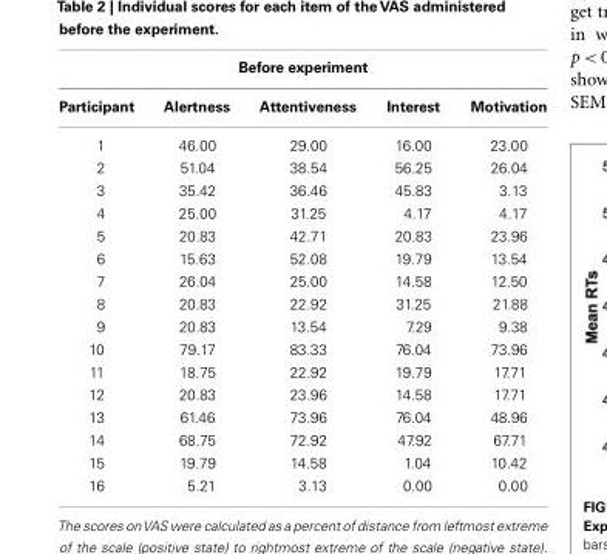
<table><thead><tr><td colspan="5">Before experiment</td></tr><tr><td>Participant</td><td>Alertness</td><td>Attentiveness</td><td>Interest</td><td>Motivation</td></tr></thead><tbody><tr><td>1</td><td>46.00</td><td>29.00</td><td>16.00</td><td>23.00</td></tr><tr><td>2</td><td>51.04</td><td>38.54</td><td>56.25</td><td>26.04</td></tr><tr><td>3</td><td>35.42</td><td>36.46</td><td>45.83</td><td>3.13</td></tr><tr><td>4</td><td>25.00</td><td>31.25</td><td>4.17</td><td>4.17</td></tr><tr><td>5</td><td>20.83</td><td>42.71</td><td>20.83</td><td>23.96</td></tr><tr><td>6</td><td>15.63</td><td>52.08</td><td>19.79</td><td>13.54</td></tr><tr><td>7</td><td>26.04</td><td>25.00</td><td>14.58</td><td>12.50</td></tr><tr><td>8</td><td>20.83</td><td>22.92</td><td>31.25</td><td>21.88</td></tr><tr><td>9</td><td>20.83</td><td>13.54</td><td>7.29</td><td>9.38</td></tr><tr><td>10</td><td>79.17</td><td>83.33</td><td>76.04</td><td>73.96</td></tr><tr><td>11</td><td>18.75</td><td>22.92</td><td>19.79</td><td>17.71</td></tr><tr><td>12</td><td>20.83</td><td>23.96</td><td>14.58</td><td>17.71</td></tr><tr><td>13</td><td>61.46</td><td>73.96</td><td>76.04</td><td>48.96</td></tr><tr><td>14</td><td>68.75</td><td>72.92</td><td>47.92</td><td>67.71</td></tr><tr><td>15</td><td>19.79</td><td>14.58</td><td>1.04</td><td>10.42</td></tr><tr><td>16</td><td>5.21</td><td>3.13</td><td>0.00</td><td>0.00</td></tr></tbody></table>